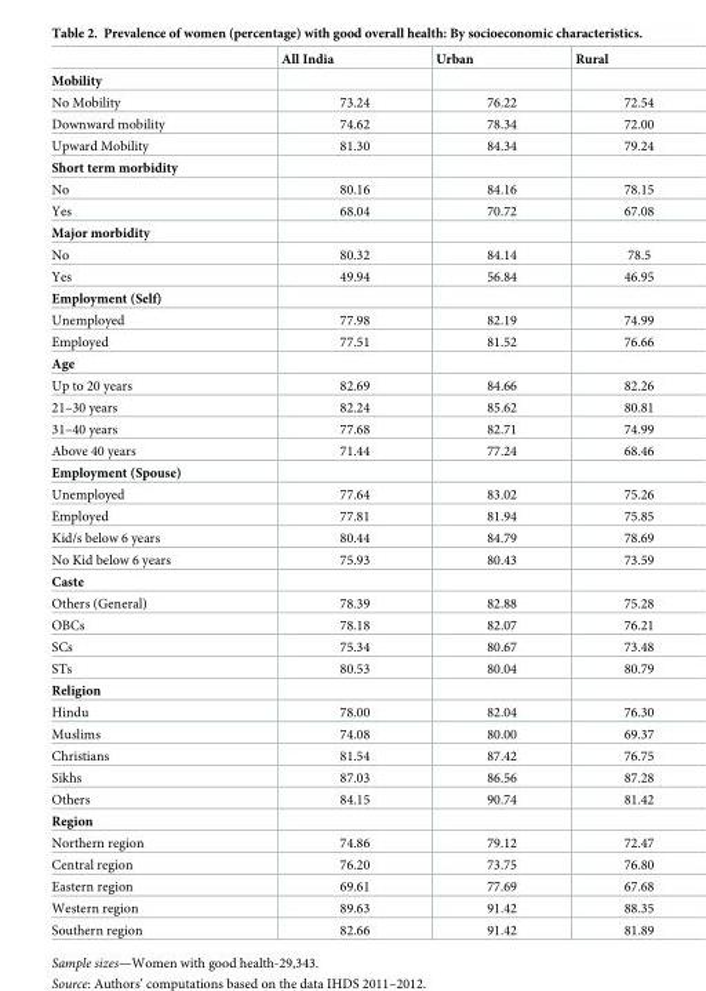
<table><thead><tr><td></td><td>All India</td><td>Urban</td><td>Rural</td></tr></thead><tbody><tr><td colspan="4">Mobility</td></tr><tr><td>No Mobility</td><td>73.24</td><td>76.22</td><td>72.54</td></tr><tr><td>Downward mobility</td><td>74.62</td><td>78.34</td><td>72.00</td></tr><tr><td>Upward Mobility</td><td>81.30</td><td>84.34</td><td>79.24</td></tr><tr><td colspan="4">Short term morbidity</td></tr><tr><td>No</td><td>80.16</td><td>84.16</td><td>78.15</td></tr><tr><td>Yes</td><td>68.04</td><td>70.72</td><td>67.08</td></tr><tr><td colspan="4">Major morbidity</td></tr><tr><td>No</td><td>80.32</td><td>84.14</td><td>78.5</td></tr><tr><td>Yes</td><td>49.94</td><td>56.84</td><td>46.95</td></tr><tr><td colspan="4">Employment (Self)</td></tr><tr><td>Unemployed</td><td>77.98</td><td>82.19</td><td>74.99</td></tr><tr><td>Employed</td><td>77.51</td><td>81.52</td><td>76.66</td></tr><tr><td colspan="4">Age</td></tr><tr><td>Up to 20 years</td><td>82.69</td><td>84.66</td><td>82.26</td></tr><tr><td>21–30 years</td><td>82.24</td><td>85.62</td><td>80.81</td></tr><tr><td>31–40 years</td><td>77.68</td><td>82.71</td><td>74.99</td></tr><tr><td>Above 40 years</td><td>71.44</td><td>77.24</td><td>68.46</td></tr><tr><td colspan="4">Employment (Spouse)</td></tr><tr><td>Unemployed</td><td>77.64</td><td>83.02</td><td>75.26</td></tr><tr><td>Employed</td><td>77.81</td><td>81.94</td><td>75.85</td></tr><tr><td>Kid/s below 6 years</td><td>80.44</td><td>84.79</td><td>78.69</td></tr><tr><td>No Kid below 6 years</td><td>75.93</td><td>80.43</td><td>73.59</td></tr><tr><td colspan="4">Caste</td></tr><tr><td>Others (General)</td><td>78.39</td><td>82.88</td><td>75.28</td></tr><tr><td>OBCs</td><td>78.18</td><td>82.07</td><td>76.21</td></tr><tr><td>SCs</td><td>75.34</td><td>80.67</td><td>73.48</td></tr><tr><td>STs</td><td>80.53</td><td>80.04</td><td>80.79</td></tr><tr><td colspan="4">Religion</td></tr><tr><td>Hindu</td><td>78.00</td><td>82.04</td><td>76.30</td></tr><tr><td>Muslims</td><td>74.08</td><td>80.00</td><td>69.37</td></tr><tr><td>Christians</td><td>81.54</td><td>87.42</td><td>76.75</td></tr><tr><td>Sikhs</td><td>87.03</td><td>86.56</td><td>87.28</td></tr><tr><td>Others</td><td>84.15</td><td>90.74</td><td>81.42</td></tr><tr><td colspan="4">Region</td></tr><tr><td>Northern region</td><td>74.86</td><td>79.12</td><td>72.47</td></tr><tr><td>Central region</td><td>76.20</td><td>73.75</td><td>76.80</td></tr><tr><td>Eastern region</td><td>69.61</td><td>77.69</td><td>67.68</td></tr><tr><td>Western region</td><td>89.63</td><td>91.42</td><td>88.35</td></tr><tr><td>Southern region</td><td>82.66</td><td>91.42</td><td>81.89</td></tr></tbody></table>